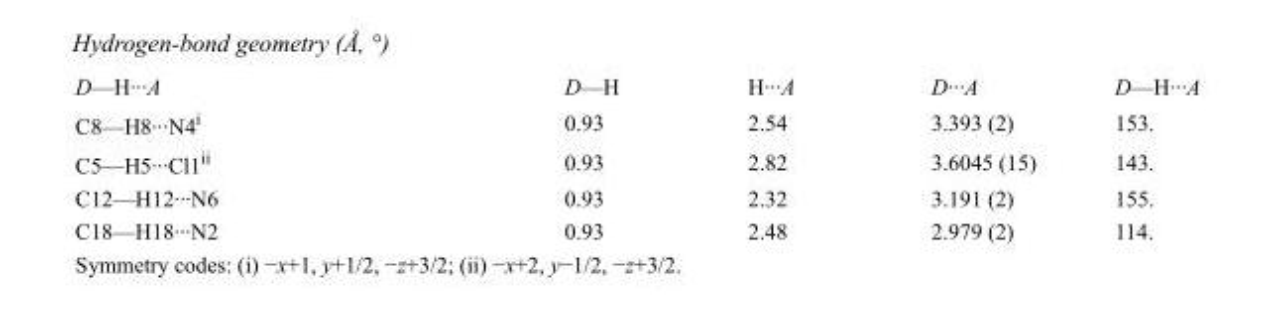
<table><tbody><tr><td>D—H···A</td><td>D—H</td><td>H···A</td><td>D···A</td><td>D—H···A</td></tr><tr><td>C8—H8···N4<sup>i</sup></td><td>0.93</td><td>2.54</td><td>3.393 (2)</td><td>153.</td></tr><tr><td>C5—H5···Cl1<sup>ii</sup></td><td>0.93</td><td>2.82</td><td>3.6045 (15)</td><td>143.</td></tr><tr><td>C12—H12···N6</td><td>0.93</td><td>2.32</td><td>3.191 (2)</td><td>155.</td></tr><tr><td>C18—H18···N2</td><td>0.93</td><td>2.48</td><td>2.979 (2)</td><td>114.</td></tr></tbody></table>